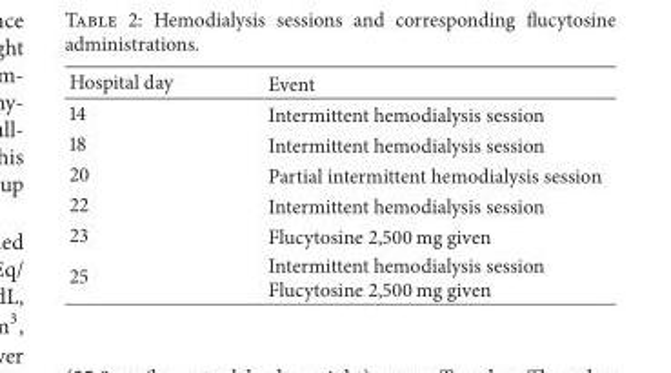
<table><thead><tr><td>Hospital day</td><td>Event</td></tr></thead><tbody><tr><td>14</td><td>Intermittent hemodialysis session</td></tr><tr><td>18</td><td>Intermittent hemodialysis session</td></tr><tr><td>20</td><td>Partial intermittent hemodialysis session</td></tr><tr><td>22</td><td>Intermittent hemodialysis session</td></tr><tr><td>23</td><td>Flucytosine 2,500 mg given</td></tr><tr><td>25</td><td>Intermittent hemodialysis session Flucytosine 2,500 mg given</td></tr></tbody></table>